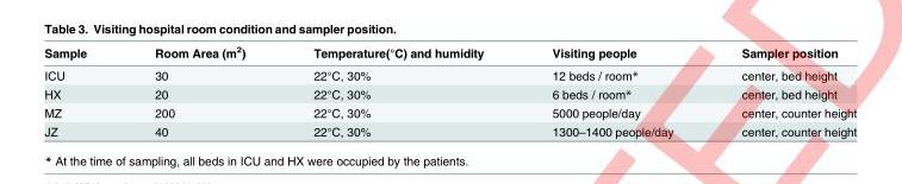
<table><thead><tr><td>Sample</td><td>Room Area (m2)</td><td>Temperature(°C) and humidity</td><td>Visiting people</td><td>Sampler position</td></tr></thead><tbody><tr><td>ICU</td><td>30</td><td>22°C, 30%</td><td>12 beds / room*</td><td>center, bed height</td></tr><tr><td>HX</td><td>20</td><td>22°C, 30%</td><td>6 beds / room*</td><td>center, bed height</td></tr><tr><td>MZ</td><td>200</td><td>22°C, 30%</td><td>5000 people/day</td><td>center, counter height</td></tr><tr><td>JZ</td><td>40</td><td>22°C, 30%</td><td>1300–1400 people/day</td><td>center, counter height</td></tr></tbody></table>